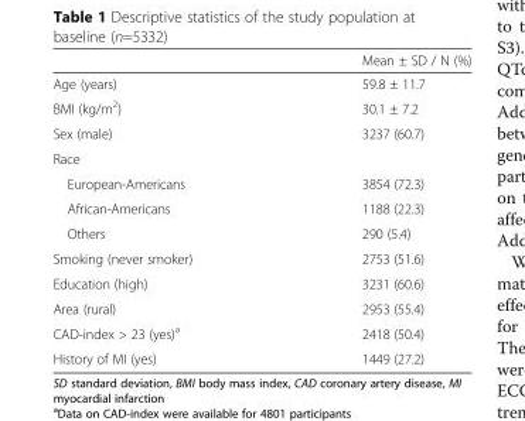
<table><thead><tr><td></td><td>Mean ± SD / N (%)</td></tr></thead><tbody><tr><td>Age (years)</td><td>59.8 ± 11.7</td></tr><tr><td>BMI (kg/m<sup>2</sup>)</td><td>30.1 ± 7.2</td></tr><tr><td>Sex (male)</td><td>3237 (60.7)</td></tr><tr><td colspan="2">Race</td></tr><tr><td>European-Americans</td><td>3854 (72.3)</td></tr><tr><td>African-Americans</td><td>1188 (22.3)</td></tr><tr><td>Others</td><td>290 (5.4)</td></tr><tr><td>Smoking (never smoker)</td><td>2753 (51.6)</td></tr><tr><td>Education (high)</td><td>3231 (60.6)</td></tr><tr><td>Area (rural)</td><td>2953 (55.4)</td></tr><tr><td>CAD-index &gt; 23 (yes)<sup>a</sup></td><td>2418 (50.4)</td></tr><tr><td>History of MI (yes)</td><td>1449 (27.2)</td></tr></tbody></table>